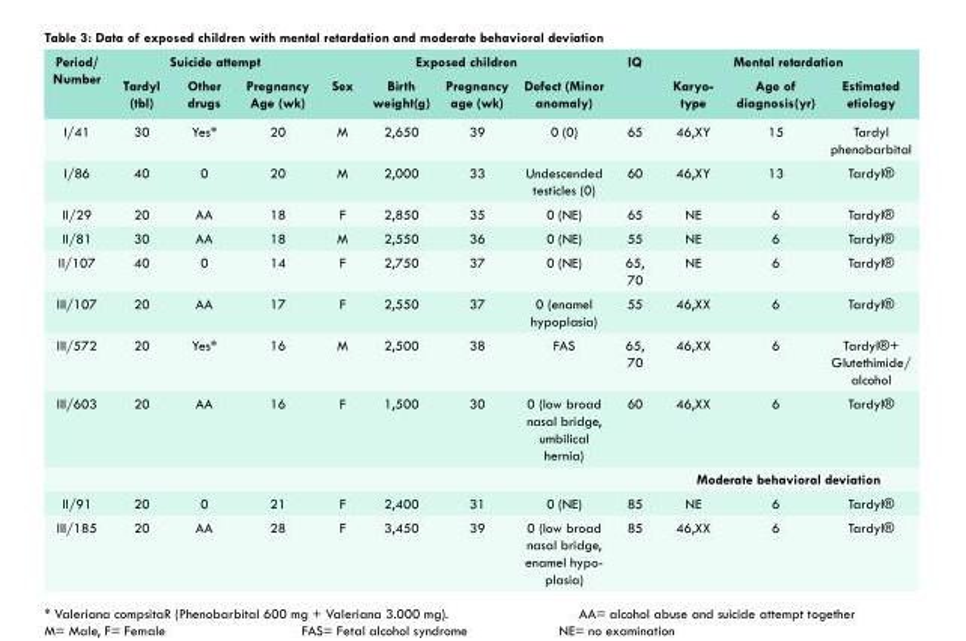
<table><thead><tr><td rowspan="2">Period/ Number</td><td colspan="4">Suicide attempt</td><td colspan="3">Exposed children</td><td rowspan="2">IQ</td><td colspan="3">Mental retardation</td></tr><tr><td>Tardyl (tbl)</td><td>Other drugs</td><td>Pregnancy Age (wk)</td><td>Sex</td><td>Birth weight(g)</td><td>Pregnancy age (wk)</td><td>Defect (Minor anomaly)</td><td>Karyo- type</td><td>Age of diagnosis(yr)</td><td>Estimated etiology</td></tr></thead><tbody><tr><td>I/41</td><td>30</td><td>Yes*</td><td>20</td><td>M</td><td>2,650</td><td>39</td><td>0 (0)</td><td>65</td><td>46,XY</td><td>15</td><td>Tardyl phenobarbital</td></tr><tr><td>I/86</td><td>40</td><td>0</td><td>20</td><td>M</td><td>2,000</td><td>33</td><td>Undescended testicles (0)</td><td>60</td><td>46,XY</td><td>13</td><td>Tardyl®</td></tr><tr><td>II/29</td><td>20</td><td>AA</td><td>18</td><td>F</td><td>2,850</td><td>35</td><td>0 (NE)</td><td>65</td><td>NE</td><td>6</td><td>Tardyl®</td></tr><tr><td>II/81</td><td>30</td><td>AA</td><td>18</td><td>M</td><td>2,550</td><td>36</td><td>0 (NE)</td><td>55</td><td>NE</td><td>6</td><td>Tardyl®</td></tr><tr><td>II/107</td><td>40</td><td>0</td><td>14</td><td>F</td><td>2,750</td><td>37</td><td>0 (NE)</td><td>65, 70</td><td>NE</td><td>6</td><td>Tardyl®</td></tr><tr><td>III/107</td><td>20</td><td>AA</td><td>17</td><td>F</td><td>2,550</td><td>37</td><td>0 (enamel hypoplasia)</td><td>55</td><td>46,XX</td><td>6</td><td>Tardyl®</td></tr><tr><td>III/572</td><td>20</td><td>Yes*</td><td>16</td><td>M</td><td>2,500</td><td>38</td><td>FAS</td><td>65, 70</td><td>46,XX</td><td>6</td><td>Tardyl®+ Glutethimide/ alcohol</td></tr><tr><td rowspan="2">III/603</td><td>20</td><td>AA</td><td>16</td><td>F</td><td>1,500</td><td>30</td><td>0 (low broad nasal bridge, umbilical hernia)</td><td>60</td><td>46,XX</td><td>6</td><td>Tardyl®</td></tr><tr><td></td><td></td><td></td><td></td><td></td><td></td><td></td><td></td><td colspan="3">Moderate behavioral deviation</td></tr><tr><td>II/91</td><td>20</td><td>0</td><td>21</td><td>F</td><td>2,400</td><td>31</td><td>0 (NE)</td><td>85</td><td>NE</td><td>6</td><td>Tardyl®</td></tr><tr><td>III/185</td><td>20</td><td>AA</td><td>28</td><td>F</td><td>3,450</td><td>39</td><td>0 (low broad nasal bridge, enamel hypo- plasia)</td><td>85</td><td>46,XX</td><td>6</td><td>Tardyl®</td></tr></tbody></table>